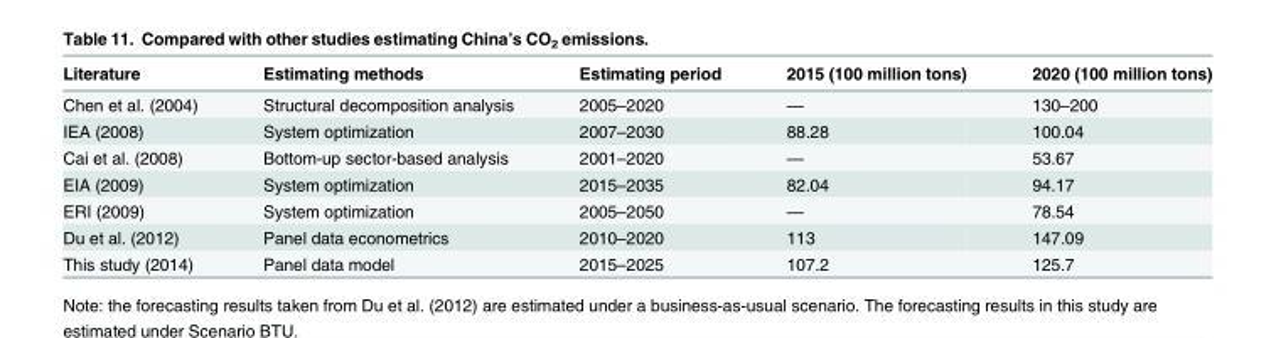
<table><thead><tr><td>Literature</td><td>Estimating methods</td><td>Estimating period</td><td>2015 (100 million tons)</td><td>2020 (100 million tons)</td></tr></thead><tbody><tr><td>Chen et al. (2004)</td><td>Structural decomposition analysis</td><td>2005–2020</td><td>—</td><td>130–200</td></tr><tr><td>IEA (2008)</td><td>System optimization</td><td>2007–2030</td><td>88.28</td><td>100.04</td></tr><tr><td>Cai et al. (2008)</td><td>Bottom-up sector-based analysis</td><td>2001–2020</td><td>—</td><td>53.67</td></tr><tr><td>EIA (2009)</td><td>System optimization</td><td>2015–2035</td><td>82.04</td><td>94.17</td></tr><tr><td>ERI (2009)</td><td>System optimization</td><td>2005–2050</td><td>—</td><td>78.54</td></tr><tr><td>Du et al. (2012)</td><td>Panel data econometrics</td><td>2010–2020</td><td>113</td><td>147.09</td></tr><tr><td>This study (2014)</td><td>Panel data model</td><td>2015–2025</td><td>107.2</td><td>125.7</td></tr></tbody></table>